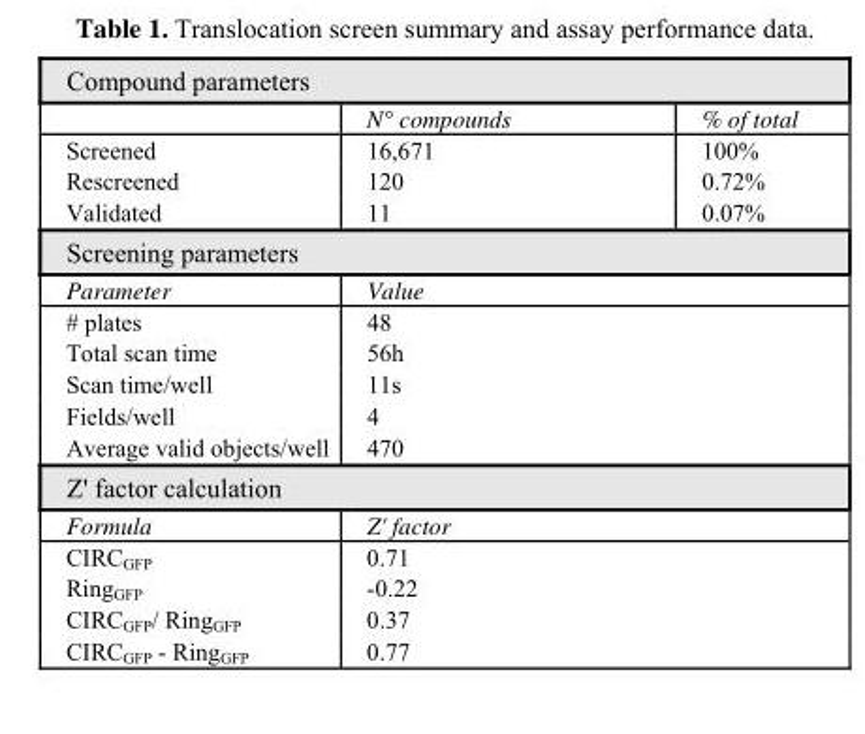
<table><tbody><tr><td colspan="3">Compound parameters</td></tr><tr><td></td><td>N° compounds</td><td>% of total</td></tr><tr><td>Screened</td><td>16,671</td><td>100%</td></tr><tr><td>Rescreened</td><td>120</td><td>0.72%</td></tr><tr><td>Validated</td><td>11</td><td>0.07%</td></tr><tr><td colspan="3">Screening parameters</td></tr><tr><td>Parameter</td><td colspan="2">Value</td></tr><tr><td># plates</td><td colspan="2">48</td></tr><tr><td>Total scan time</td><td colspan="2">56h</td></tr><tr><td>Scan time/well</td><td colspan="2">11s</td></tr><tr><td>Fields/well</td><td colspan="2">4</td></tr><tr><td>Average valid objects/well</td><td colspan="2">470</td></tr><tr><td colspan="3">Z&#x27; factor calculation</td></tr><tr><td>Formula</td><td colspan="2">Z&#x27; factor</td></tr><tr><td>CIRC<sub>GFP</sub></td><td colspan="2">0.71</td></tr><tr><td>Ring<sub>GFP</sub></td><td colspan="2">-0.22</td></tr><tr><td>CIRC<sub>GFP</sub>/ Ring<sub>GFP</sub></td><td colspan="2">0.37</td></tr><tr><td>CIRC<sub>GFP</sub> - Ring<sub>GFP</sub></td><td colspan="2">0.77</td></tr></tbody></table>